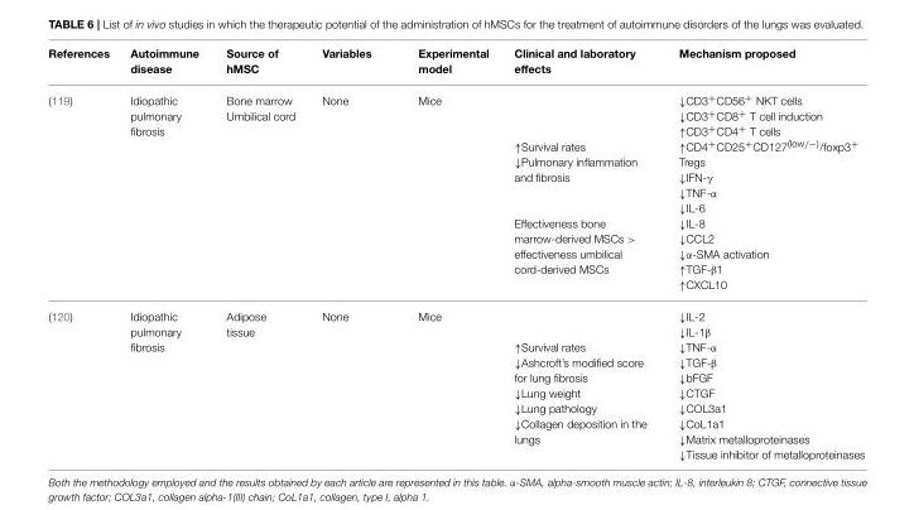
<table><thead><tr><td>References</td><td>Autoimmune disease</td><td>Source of hMSC</td><td>Variables</td><td>Experimental model</td><td>Clinical and laboratory effects</td><td>Mechanism proposed</td></tr></thead><tbody><tr><td>(119)</td><td>Idiopathic pulmonary fibrosis</td><td>Bone marrow Umbilical cord</td><td>None</td><td>Mice</td><td>↑Survival rates ↓Pulmonary inflammation and fibrosis Effectiveness bone marrow-derived MSCs &gt; effectiveness umbilical cord-derived MSCs</td><td>↓CD3<sup>+</sup>CD56<sup>+</sup> NKT cells ↓CD3<sup>+</sup>CD8<sup>+</sup> T cell induction ↑CD3<sup>+</sup>CD4<sup>+</sup> T cells ↑CD4<sup>+</sup>CD25<sup>+</sup>CD127<sup>(low/−)</sup>/foxp3<sup>+</sup> Tregs ↓IFN-γ ↓TNF-α ↓IL-6 ↓IL-8 ↓CCL2 ↓α-SMA activation ↑TGF-β1 ↑CXCL10</td></tr><tr><td>(120)</td><td>Idiopathic pulmonary fibrosis</td><td>Adipose tissue</td><td>None</td><td>Mice</td><td>↑Survival rates ↓Ashcroft’s modified score for lung fibrosis ↓Lung weight ↓Lung pathology ↓Collagen deposition in the lungs</td><td>↓IL-2 ↓IL-1β ↓TNF-α ↓TGF-β ↓bFGF ↓CTGF ↓COL3a1 ↓CoL1a1 ↓Matrix metalloproteinases ↓Tissue inhibitor of metalloproteinases</td></tr></tbody></table>